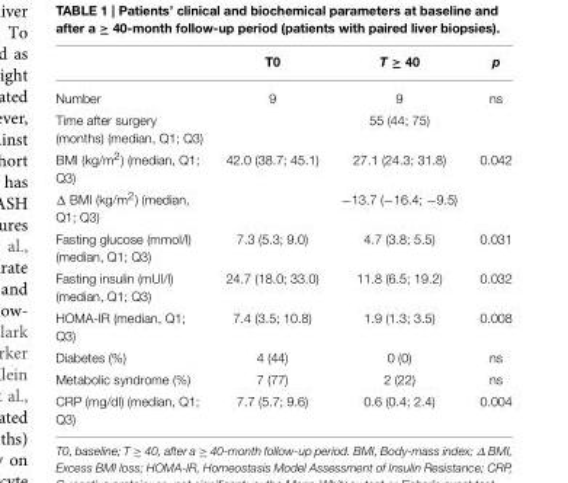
<table><thead><tr><td></td><td>T0</td><td>T ≥ 40</td><td>p</td></tr></thead><tbody><tr><td>Number</td><td>9</td><td>9</td><td>ns</td></tr><tr><td>Time after surgery (months) (median, Q1; Q3)</td><td></td><td>55 (44; 75)</td><td></td></tr><tr><td>BMI (kg/m<sup>2</sup>) (median, Q1; Q3)</td><td>42.0 (38.7; 45.1)</td><td>27.1 (24.3; 31.8)</td><td>0.042</td></tr><tr><td>Δ BMI (kg/m<sup>2</sup>) (median, Q1; Q3)</td><td></td><td>−13.7 (−16.4; −9.5)</td><td></td></tr><tr><td>Fasting glucose (mmol/l) (median, Q1; Q3)</td><td>7.3 (5.3; 9.0)</td><td>4.7 (3.8; 5.5)</td><td>0.031</td></tr><tr><td>Fasting insulin (mUI/l) (median, Q1; Q3)</td><td>24.7 (18.0; 33.0)</td><td>11.8 (6.5; 19.2)</td><td>0.032</td></tr><tr><td>HOMA-IR (median, Q1; Q3)</td><td>7.4 (3.5; 10.8)</td><td>1.9 (1.3; 3.5)</td><td>0.008</td></tr><tr><td>Diabetes (%)</td><td>4 (44)</td><td>0 (0)</td><td>ns</td></tr><tr><td>Metabolic syndrome (%)</td><td>7 (77)</td><td>2 (22)</td><td>ns</td></tr><tr><td>CRP (mg/dl) (median, Q1; Q3)</td><td>7.7 (5.7; 9.6)</td><td>0.6 (0.4; 2.4)</td><td>0.004</td></tr></tbody></table>